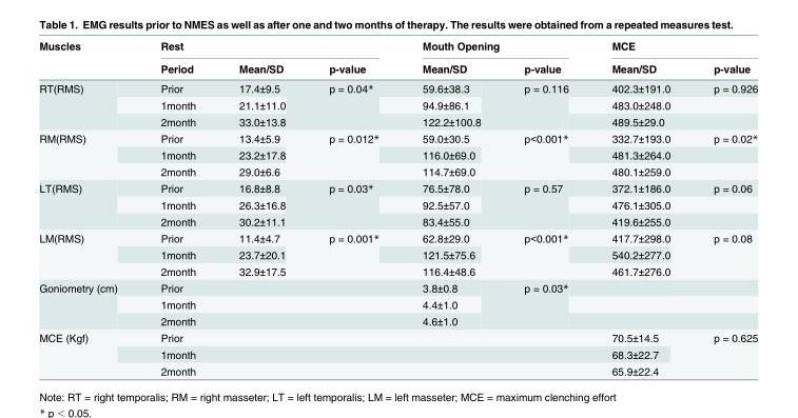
<table><thead><tr><td rowspan="2">Muscles</td><td colspan="3">Rest</td><td colspan="2">Mouth Opening</td><td colspan="2">MCE</td></tr><tr><td>Period</td><td>Mean/SD</td><td>p-value</td><td>Mean/SD</td><td>p-value</td><td>Mean/SD</td><td>p-value</td></tr></thead><tbody><tr><td rowspan="3">RT(RMS)</td><td>Prior</td><td>17.4±9.5</td><td rowspan="3">p = 0.04*</td><td>59.6±38.3</td><td rowspan="3">p = 0.116</td><td>402.3±191.0</td><td>p = 0.926</td></tr><tr><td>1month</td><td>21.1±11.0</td><td>94.9±86.1</td><td>483.0±248.0</td><td></td></tr><tr><td>2month</td><td>33.0±13.8</td><td>122.2±100.8</td><td>489.5±29.0</td><td></td></tr><tr><td rowspan="3">RM(RMS)</td><td>Prior</td><td>13.4±5.9</td><td rowspan="3">p = 0.012*</td><td>59.0±30.5</td><td rowspan="3">p&lt;0.001*</td><td>332.7±193.0</td><td>p = 0.02*</td></tr><tr><td>1month</td><td>23.2±17.8</td><td>116.0±69.0</td><td>481.3±264.0</td><td></td></tr><tr><td>2month</td><td>29.0±6.6</td><td>114.7±69.0</td><td>480.1±259.0</td><td></td></tr><tr><td rowspan="3">LT(RMS)</td><td>Prior</td><td>16.8±8.8</td><td rowspan="3">p = 0.03*</td><td>76.5±78.0</td><td rowspan="3">p = 0.57</td><td>372.1±186.0</td><td>p = 0.06</td></tr><tr><td>1month</td><td>26.3±16.8</td><td>92.5±57.0</td><td>476.1±305.0</td><td></td></tr><tr><td>2month</td><td>30.2±11.1</td><td>83.4±55.0</td><td>419.6±255.0</td><td></td></tr><tr><td rowspan="3">LM(RMS)</td><td>Prior</td><td>11.4±4.7</td><td rowspan="3">p = 0.001*</td><td>62.8±29.0</td><td rowspan="3">p&lt;0.001*</td><td>417.7±298.0</td><td rowspan="3">p = 0.08</td></tr><tr><td>1month</td><td>23.7±20.1</td><td>121.5±75.6</td><td>540.2±277.0</td></tr><tr><td>2month</td><td>32.9±17.5</td><td>116.4±48.6</td><td>461.7±276.0</td></tr><tr><td rowspan="3">Goniometry (cm)</td><td>Prior</td><td></td><td></td><td>3.8±0.8</td><td rowspan="3">p = 0.03*</td><td></td><td></td></tr><tr><td>1month</td><td></td><td></td><td>4.4±1.0</td><td></td><td></td></tr><tr><td>2month</td><td></td><td></td><td>4.6±1.0</td><td></td><td></td></tr><tr><td rowspan="3">MCE (Kgf)</td><td>Prior</td><td></td><td></td><td></td><td></td><td>70.5±14.5</td><td rowspan="3">p = 0.625</td></tr><tr><td>1month</td><td></td><td></td><td></td><td></td><td>68.3±22.7</td></tr><tr><td>2month</td><td></td><td></td><td></td><td></td><td>65.9±22.4</td></tr></tbody></table>